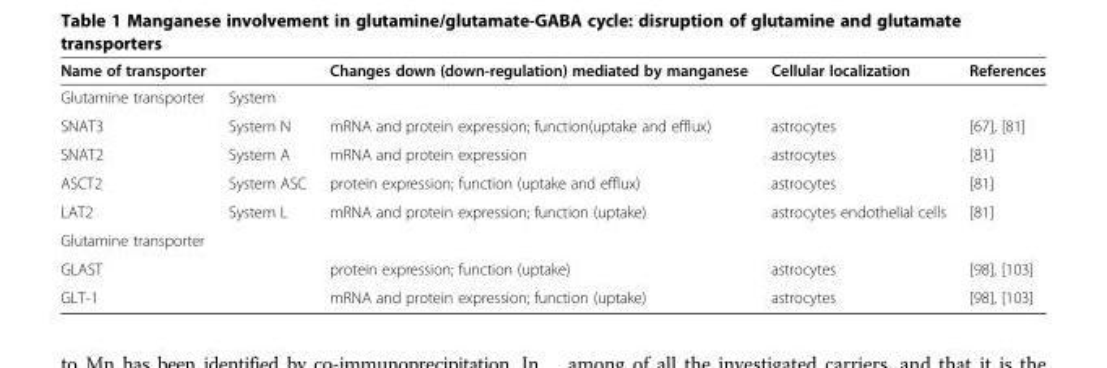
<table><thead><tr><td>Name of transporter</td><td></td><td>Changes down (down-regulation) mediated by manganese</td><td>Cellular localization</td><td>References</td></tr></thead><tbody><tr><td>Glutamine transporter</td><td>System</td><td></td><td></td><td></td></tr><tr><td>SNAT3</td><td>System N</td><td>mRNA and protein expression; function(uptake and efflux)</td><td>astrocytes</td><td>[67], [81]</td></tr><tr><td>SNAT2</td><td>System A</td><td>mRNA and protein expression</td><td>astrocytes</td><td>[81]</td></tr><tr><td>ASCT2</td><td>System ASC</td><td>protein expression; function (uptake and efflux)</td><td>astrocytes</td><td>[81]</td></tr><tr><td>LAT2</td><td>System L</td><td>mRNA and protein expression; function (uptake)</td><td>astrocytes endothelial cells</td><td>[81]</td></tr><tr><td colspan="5">Glutamine transporter</td></tr><tr><td>GLAST</td><td></td><td>protein expression; function (uptake)</td><td>astrocytes</td><td>[98], [103]</td></tr><tr><td>GLT-1</td><td></td><td>mRNA and protein expression; function (uptake)</td><td>astrocytes</td><td>[98], [103]</td></tr></tbody></table>